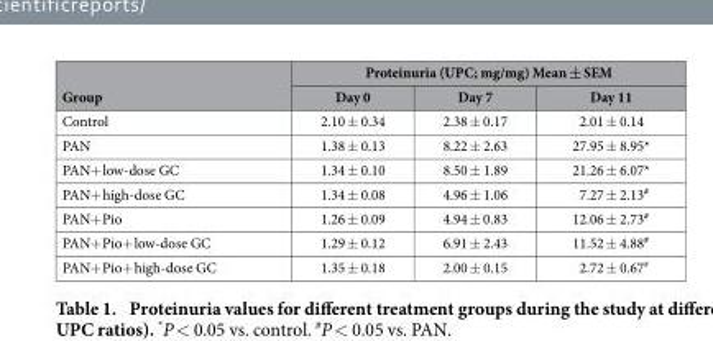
<table><thead><tr><td rowspan="2">Group</td><td colspan="3">Proteinuria (UPC; mg/mg) Mean ± SEM</td></tr><tr><td>Day 0</td><td>Day 7</td><td>Day 11</td></tr></thead><tbody><tr><td>Control</td><td>2.10 ± 0.34</td><td>2.38 ± 0.17</td><td>2.01 ± 0.14</td></tr><tr><td>PAN</td><td>1.38 ± 0.13</td><td>8.22 ± 2.63</td><td>27.95 ± 8.95*</td></tr><tr><td>PAN+ low-dose GC</td><td>1.34 ± 0.10</td><td>8.50 ± 1.89</td><td>21.26 ± 6.07*</td></tr><tr><td>PAN+ high-dose GC</td><td>1.34 ± 0.08</td><td>4.96 ± 1.06</td><td>7.27 ± 2.13<sup>#</sup></td></tr><tr><td>PAN+ Pio</td><td>1.26 ± 0.09</td><td>4.94 ± 0.83</td><td>12.06 ± 2.73<sup>#</sup></td></tr><tr><td>PAN+ Pio+ low-dose GC</td><td>1.29 ± 0.12</td><td>6.91 ± 2.43</td><td>11.52 ± 4.88<sup>#</sup></td></tr><tr><td>PAN+ Pio+ high-dose GC</td><td>1.35 ± 0.18</td><td>2.00 ± 0.15</td><td>2.72 ± 0.67<sup>#</sup></td></tr></tbody></table>